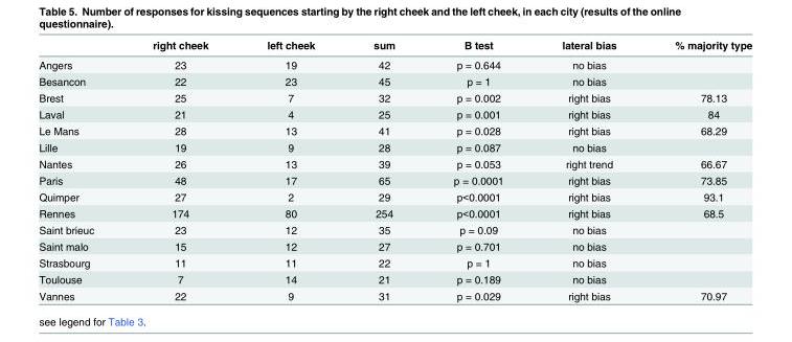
<table><thead><tr><td></td><td>right cheek</td><td>left cheek</td><td>sum</td><td>B test</td><td>lateral bias</td><td>% majority type</td></tr></thead><tbody><tr><td>Angers</td><td>23</td><td>19</td><td>42</td><td>p = 0.644</td><td>no bias</td><td></td></tr><tr><td>Besancon</td><td>22</td><td>23</td><td>45</td><td>p = 1</td><td>no bias</td><td></td></tr><tr><td>Brest</td><td>25</td><td>7</td><td>32</td><td>p = 0.002</td><td>right bias</td><td>78.13</td></tr><tr><td>Laval</td><td>21</td><td>4</td><td>25</td><td>p = 0.001</td><td>right bias</td><td>84</td></tr><tr><td>Le Mans</td><td>28</td><td>13</td><td>41</td><td>p = 0.028</td><td>right bias</td><td>68.29</td></tr><tr><td>Lille</td><td>19</td><td>9</td><td>28</td><td>p = 0.087</td><td>no bias</td><td></td></tr><tr><td>Nantes</td><td>26</td><td>13</td><td>39</td><td>p = 0.053</td><td>right trend</td><td>66.67</td></tr><tr><td>Paris</td><td>48</td><td>17</td><td>65</td><td>p = 0.0001</td><td>right bias</td><td>73.85</td></tr><tr><td>Quimper</td><td>27</td><td>2</td><td>29</td><td>p&lt;0.0001</td><td>right bias</td><td>93.1</td></tr><tr><td>Rennes</td><td>174</td><td>80</td><td>254</td><td>p&lt;0.0001</td><td>right bias</td><td>68.5</td></tr><tr><td>Saint brieuc</td><td>23</td><td>12</td><td>35</td><td>p = 0.09</td><td>no bias</td><td></td></tr><tr><td>Saint malo</td><td>15</td><td>12</td><td>27</td><td>p = 0.701</td><td>no bias</td><td></td></tr><tr><td>Strasbourg</td><td>11</td><td>11</td><td>22</td><td>p = 1</td><td>no bias</td><td></td></tr><tr><td>Toulouse</td><td>7</td><td>14</td><td>21</td><td>p = 0.189</td><td>no bias</td><td></td></tr><tr><td>Vannes</td><td>22</td><td>9</td><td>31</td><td>p = 0.029</td><td>right bias</td><td>70.97</td></tr></tbody></table>